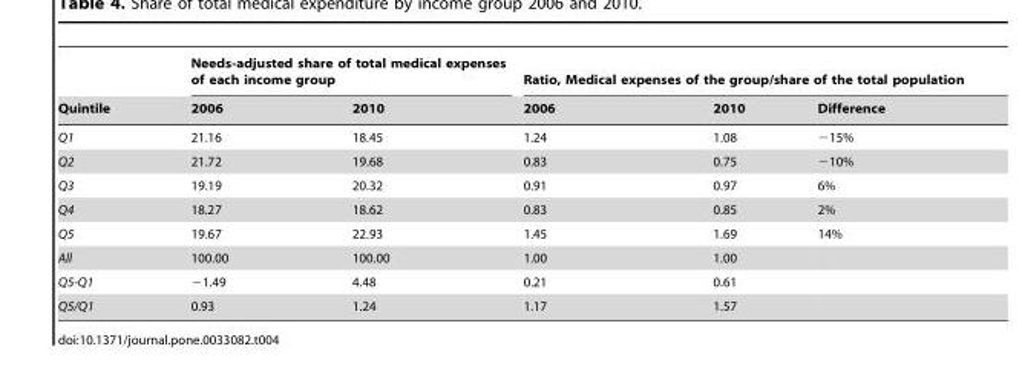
<table><thead><tr><td rowspan="2">Quintile</td><td colspan="2">Needs-adjusted share of total medical expenses of each income group</td><td colspan="3">Ratio, Medical expenses of the group/share of the total population</td></tr><tr><td>2006</td><td>2010</td><td>2006</td><td>2010</td><td>Difference</td></tr></thead><tbody><tr><td>Q1</td><td>21.16</td><td>18.45</td><td>1.24</td><td>1.08</td><td>−15%</td></tr><tr><td>Q2</td><td>21.72</td><td>19.68</td><td>0.83</td><td>0.75</td><td>−10%</td></tr><tr><td>Q3</td><td>19.19</td><td>20.32</td><td>0.91</td><td>0.97</td><td>6%</td></tr><tr><td>Q4</td><td>18.27</td><td>18.62</td><td>0.83</td><td>0.85</td><td>2%</td></tr><tr><td>Q5</td><td>19.67</td><td>22.93</td><td>1.45</td><td>1.69</td><td>14%</td></tr><tr><td>All</td><td>100.00</td><td>100.00</td><td>1.00</td><td>1.00</td><td></td></tr><tr><td>Q5-Q1</td><td>−1.49</td><td>4.48</td><td>0.21</td><td>0.61</td><td></td></tr><tr><td>Q5/Q1</td><td>0.93</td><td>1.24</td><td>1.17</td><td>1.57</td><td></td></tr></tbody></table>